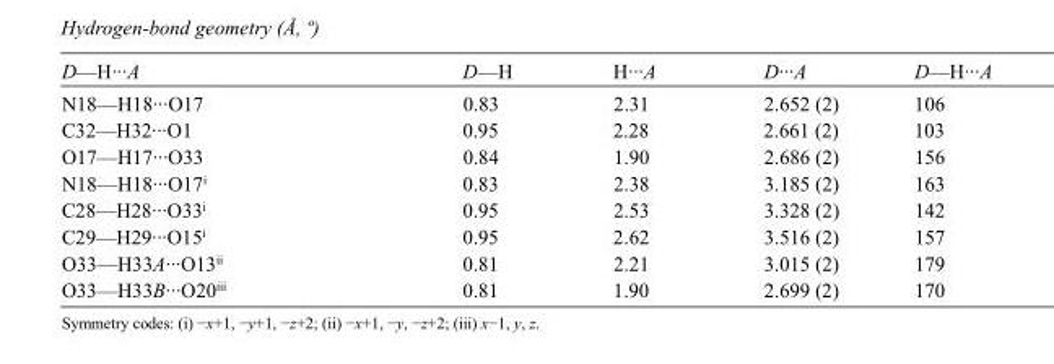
<table><tbody><tr><td>D—H···A</td><td>D—H</td><td>H···A</td><td>D···A</td><td>D—H···A</td></tr><tr><td>N18—H18···O17</td><td>0.83</td><td>2.31</td><td>2.652 (2)</td><td>106</td></tr><tr><td>C32—H32···O1</td><td>0.95</td><td>2.28</td><td>2.661 (2)</td><td>103</td></tr><tr><td>O17—H17···O33</td><td>0.84</td><td>1.90</td><td>2.686 (2)</td><td>156</td></tr><tr><td>N18—H18···O17<sup>i</sup></td><td>0.83</td><td>2.38</td><td>3.185 (2)</td><td>163</td></tr><tr><td>C28—H28···O33<sup>i</sup></td><td>0.95</td><td>2.53</td><td>3.328 (2)</td><td>142</td></tr><tr><td>C29—H29···O15<sup>i</sup></td><td>0.95</td><td>2.62</td><td>3.516 (2)</td><td>157</td></tr><tr><td>O33—H33A···O13<sup>ii</sup></td><td>0.81</td><td>2.21</td><td>3.015 (2)</td><td>179</td></tr><tr><td>O33—H33B···O20<sup>iii</sup></td><td>0.81</td><td>1.90</td><td>2.699 (2)</td><td>170</td></tr></tbody></table>